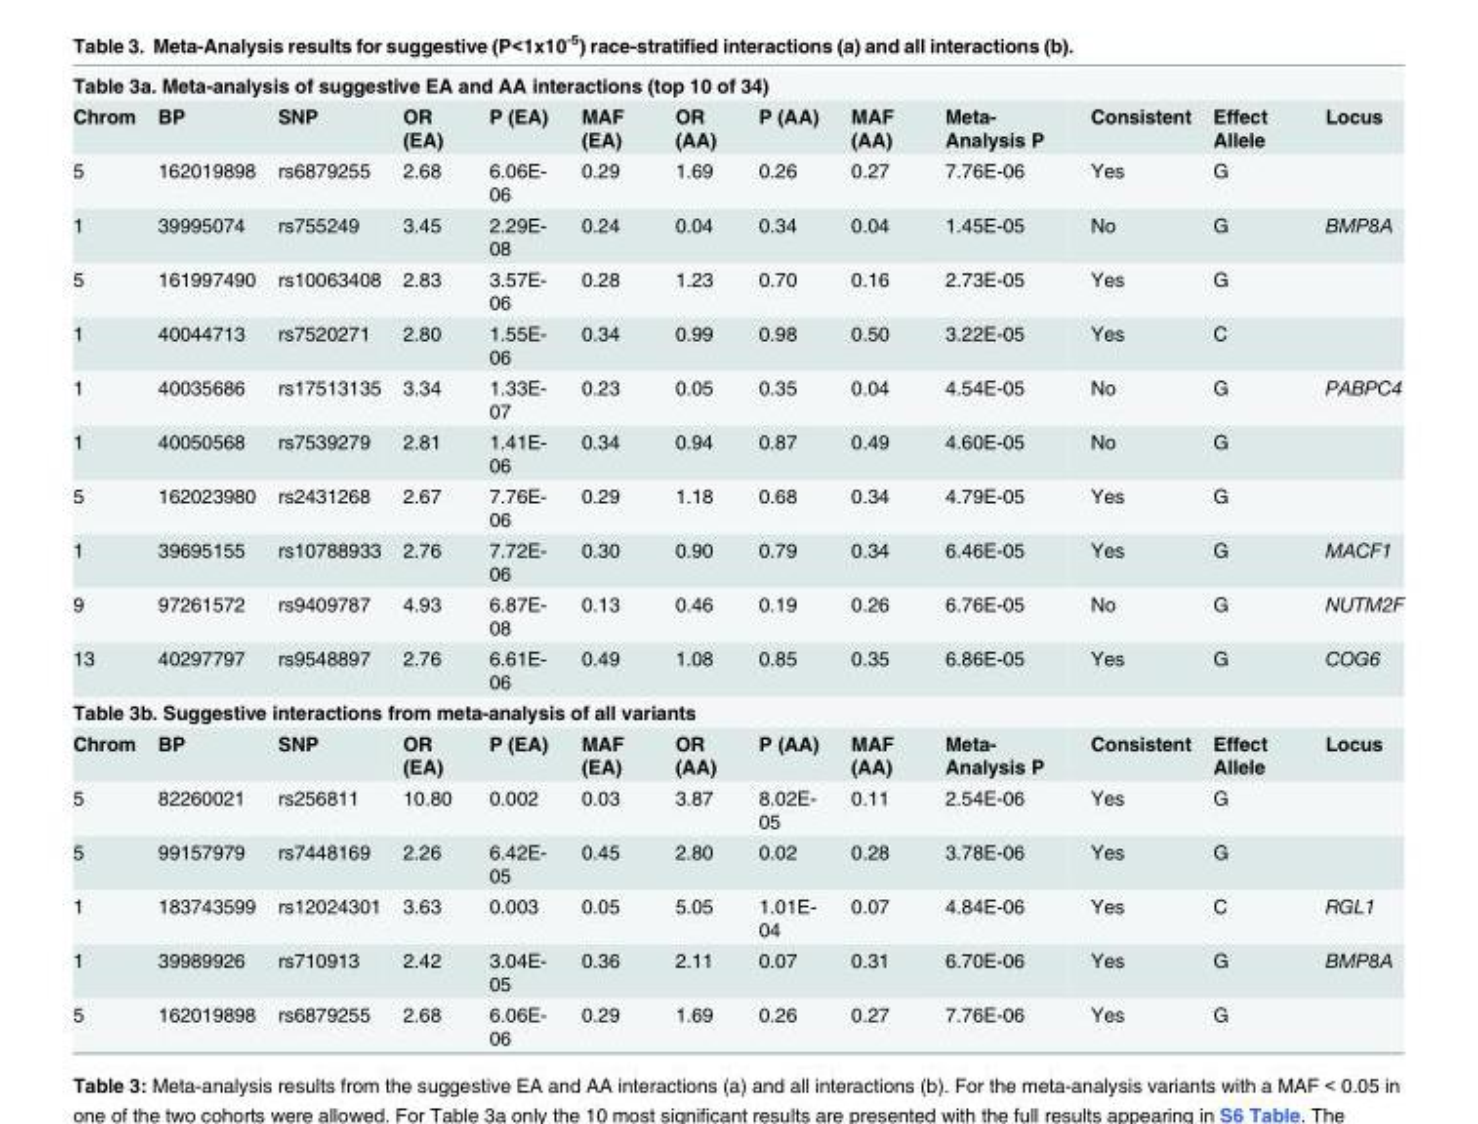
<table><tbody><tr><td colspan="13">Table 3a. Meta-analysis of suggestive EA and AA interactions (top 10 of 34)</td></tr><tr><td>Chrom</td><td>BP</td><td>SNP</td><td>OR (EA)</td><td>P (EA)</td><td>MAF (EA)</td><td>OR (AA)</td><td>P (AA)</td><td>MAF (AA)</td><td>Meta- Analysis P</td><td>Consistent</td><td>Effect Allele</td><td>Locus</td></tr><tr><td>5</td><td>162019898</td><td>rs6879255</td><td>2.68</td><td>6.06E- 06</td><td>0.29</td><td>1.69</td><td>0.26</td><td>0.27</td><td>7.76E-06</td><td>Yes</td><td>G</td><td></td></tr><tr><td>1</td><td>39995074</td><td>rs755249</td><td>3.45</td><td>2.29E- 08</td><td>0.24</td><td>0.04</td><td>0.34</td><td>0.04</td><td>1.45E-05</td><td>No</td><td>G</td><td>BMP8A</td></tr><tr><td>5</td><td>161997490</td><td>rs10063408</td><td>2.83</td><td>3.57E- 06</td><td>0.28</td><td>1.23</td><td>0.70</td><td>0.16</td><td>2.73E-05</td><td>Yes</td><td>G</td><td></td></tr><tr><td>1</td><td>40044713</td><td>rs7520271</td><td>2.80</td><td>1.55E- 06</td><td>0.34</td><td>0.99</td><td>0.98</td><td>0.50</td><td>3.22E-05</td><td>Yes</td><td>C</td><td></td></tr><tr><td>1</td><td>40035686</td><td>rs17513135</td><td>3.34</td><td>1.33E- 07</td><td>0.23</td><td>0.05</td><td>0.35</td><td>0.04</td><td>4.54E-05</td><td>No</td><td>G</td><td>PABPC4</td></tr><tr><td>1</td><td>40050568</td><td>rs7539279</td><td>2.81</td><td>1.41E- 06</td><td>0.34</td><td>0.94</td><td>0.87</td><td>0.49</td><td>4.60E-05</td><td>No</td><td>G</td><td></td></tr><tr><td>5</td><td>162023980</td><td>rs2431268</td><td>2.67</td><td>7.76E- 06</td><td>0.29</td><td>1.18</td><td>0.68</td><td>0.34</td><td>4.79E-05</td><td>Yes</td><td>G</td><td></td></tr><tr><td>1</td><td>39695155</td><td>rs10788933</td><td>2.76</td><td>7.72E- 06</td><td>0.30</td><td>0.90</td><td>0.79</td><td>0.34</td><td>6.46E-05</td><td>Yes</td><td>G</td><td>MACF1</td></tr><tr><td>9</td><td>97261572</td><td>rs9409787</td><td>4.93</td><td>6.87E- 08</td><td>0.13</td><td>0.46</td><td>0.19</td><td>0.26</td><td>6.76E-05</td><td>No</td><td>G</td><td>NUTM2F</td></tr><tr><td>13</td><td>40297797</td><td>rs9548897</td><td>2.76</td><td>6.61E- 06</td><td>0.49</td><td>1.08</td><td>0.85</td><td>0.35</td><td>6.86E-05</td><td>Yes</td><td>G</td><td>COG6</td></tr><tr><td colspan="13">Table 3b. Suggestive interactions from meta-analysis of all variants</td></tr><tr><td>Chrom</td><td>BP</td><td>SNP</td><td>OR (EA)</td><td>P (EA)</td><td>MAF (EA)</td><td>OR (AA)</td><td>P (AA)</td><td>MAF (AA)</td><td>Meta- Analysis P</td><td>Consistent</td><td>Effect Allele</td><td>Locus</td></tr><tr><td>5</td><td>82260021</td><td>rs256811</td><td>10.80</td><td>0.002</td><td>0.03</td><td>3.87</td><td>8.02E- 05</td><td>0.11</td><td>2.54E-06</td><td>Yes</td><td>G</td><td></td></tr><tr><td>5</td><td>99157979</td><td>rs7448169</td><td>2.26</td><td>6.42E- 05</td><td>0.45</td><td>2.80</td><td>0.02</td><td>0.28</td><td>3.78E-06</td><td>Yes</td><td>G</td><td></td></tr><tr><td>1</td><td>183743599</td><td>rs12024301</td><td>3.63</td><td>0.003</td><td>0.05</td><td>5.05</td><td>1.01E- 04</td><td>0.07</td><td>4.84E-06</td><td>Yes</td><td>C</td><td>RGL1</td></tr><tr><td>1</td><td>39989926</td><td>rs710913</td><td>2.42</td><td>3.04E- 05</td><td>0.36</td><td>2.11</td><td>0.07</td><td>0.31</td><td>6.70E-06</td><td>Yes</td><td>G</td><td>BMP8A</td></tr><tr><td>5</td><td>162019898</td><td>rs6879255</td><td>2.68</td><td>6.06E- 06</td><td>0.29</td><td>1.69</td><td>0.26</td><td>0.27</td><td>7.76E-06</td><td>Yes</td><td>G</td><td></td></tr></tbody></table>